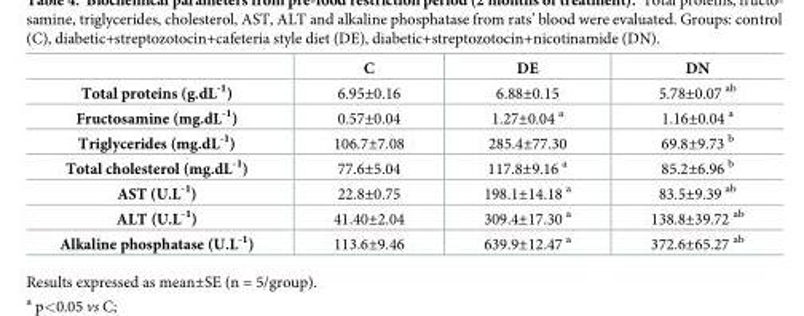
<table><thead><tr><td></td><td>C</td><td>DE</td><td>DN</td></tr></thead><tbody><tr><td>Total proteins (g.dL<sup>-1</sup>)</td><td>6.95±0.16</td><td>6.88±0.15</td><td>5.78±0.07 <sup>ab</sup></td></tr><tr><td>Fructosamine (mg.dL<sup>-1</sup>)</td><td>0.57±0.04</td><td>1.27±0.04 <sup>a</sup></td><td>1.16±0.04 <sup>a</sup></td></tr><tr><td>Triglycerides (mg.dL<sup>-1</sup>)</td><td>106.7±7.08</td><td>285.4±77.30</td><td>69.8±9.73 <sup>b</sup></td></tr><tr><td>Total cholesterol (mg.dL<sup>-1</sup>)</td><td>77.6±5.04</td><td>117.8±9.16 <sup>a</sup></td><td>85.2±6.96 <sup>b</sup></td></tr><tr><td>AST (U.L<sup>-1</sup>)</td><td>22.8±0.75</td><td>198.1±14.18 <sup>a</sup></td><td>83.5±9.39 <sup>ab</sup></td></tr><tr><td>ALT (U.L<sup>-1</sup>)</td><td>41.40±2.04</td><td>309.4±17.30 <sup>a</sup></td><td>138.8±39.72 <sup>ab</sup></td></tr><tr><td>Alkaline phosphatase (U.L<sup>-1</sup>)</td><td>113.6±9.46</td><td>639.9±12.47 <sup>a</sup></td><td>372.6±65.27 <sup>ab</sup></td></tr></tbody></table>